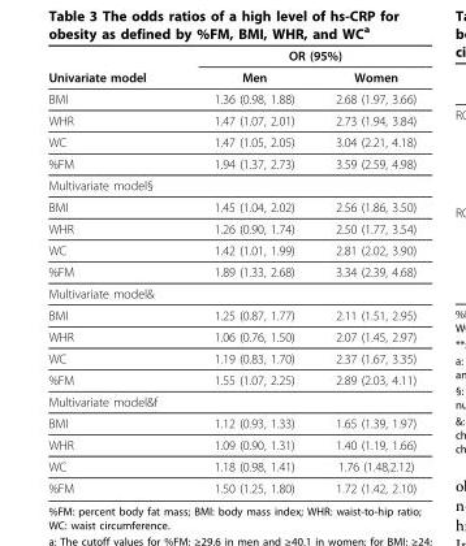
<table><thead><tr><td rowspan="2">Univariate model</td><td colspan="2">OR (95%)</td></tr><tr><td>Men</td><td>Women</td></tr></thead><tbody><tr><td>BMI</td><td>1.36 (0.98, 1.88)</td><td>2.68 (1.97, 3.66)</td></tr><tr><td>WHR</td><td>1.47 (1.07, 2.01)</td><td>2.73 (1.94, 3.84)</td></tr><tr><td>WC</td><td>1.47 (1.05, 2.05)</td><td>3.04 (2.21, 4.18)</td></tr><tr><td>%FM</td><td>1.94 (1.37, 2.73)</td><td>3.59 (2.59, 4.98)</td></tr><tr><td colspan="3">Multivariate model§</td></tr><tr><td>BMI</td><td>1.45 (1.04, 2.02)</td><td>2.56 (1.86, 3.50)</td></tr><tr><td>WHR</td><td>1.26 (0.90, 1.74)</td><td>2.50 (1.77, 3.54)</td></tr><tr><td>WC</td><td>1.42 (1.01, 1.99)</td><td>2.81 (2.02, 3.90)</td></tr><tr><td>%FM</td><td>1.89 (1.33, 2.68)</td><td>3.34 (2.39, 4.68)</td></tr><tr><td colspan="3">Multivariate model&amp;</td></tr><tr><td>BMI</td><td>1.25 (0.87, 1.77)</td><td>2.11 (1.51, 2.95)</td></tr><tr><td>WHR</td><td>1.06 (0.76, 1.50)</td><td>2.07 (1.45, 2.97)</td></tr><tr><td>WC</td><td>1.19 (0.83, 1.70)</td><td>2.37 (1.67, 3.35)</td></tr><tr><td>%FM</td><td>1.55 (1.07, 2.25)</td><td>2.89 (2.03, 4.11)</td></tr><tr><td colspan="3">Multivariate model&amp;f</td></tr><tr><td>BMI</td><td>1.12 (0.93, 1.33)</td><td>1.65 (1.39, 1.97)</td></tr><tr><td>WHR</td><td>1.09 (0.90, 1.31)</td><td>1.40 (1.19, 1.66)</td></tr><tr><td>WC</td><td>1.18 (0.98, 1.41)</td><td>1.76 (1.48,2.12)</td></tr><tr><td>%FM</td><td>1.50 (1.25, 1.80)</td><td>1.72 (1.42, 2.10)</td></tr></tbody></table>